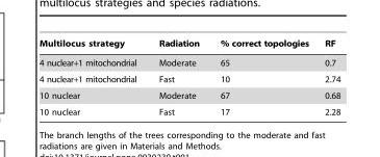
<table><thead><tr><td>Multilocus strategy</td><td>Radiation</td><td>% correct topologies</td><td>RF</td></tr></thead><tbody><tr><td>4 nuclear+1 mitochondrial</td><td>Moderate</td><td>65</td><td>0.7</td></tr><tr><td>4 nuclear+1 mitochondrial</td><td>Fast</td><td>10</td><td>2.74</td></tr><tr><td>10 nuclear</td><td>Moderate</td><td>67</td><td>0.68</td></tr><tr><td>10 nuclear</td><td>Fast</td><td>17</td><td>2.28</td></tr></tbody></table>